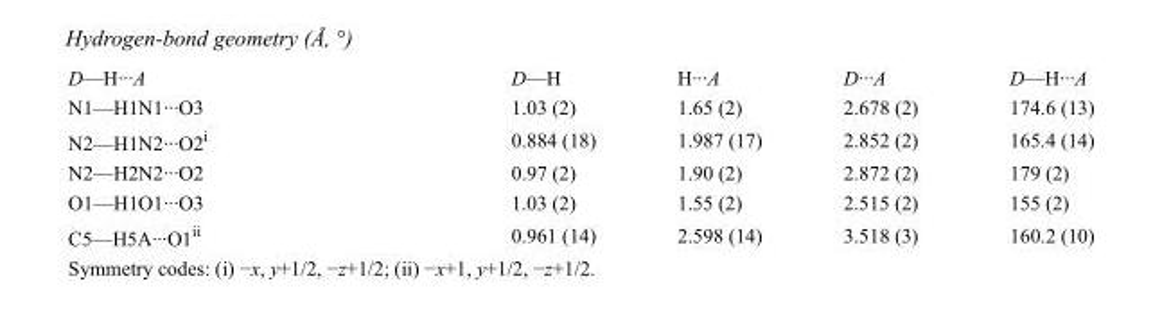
<table><tbody><tr><td>D—H···A</td><td>D—H</td><td>H···A</td><td>D···A</td><td>D—H···A</td></tr><tr><td>N1—H1N1···O3</td><td>1.03 (2)</td><td>1.65 (2)</td><td>2.678 (2)</td><td>174.6 (13)</td></tr><tr><td>N2—H1N2···O2<sup>i</sup></td><td>0.884 (18)</td><td>1.987 (17)</td><td>2.852 (2)</td><td>165.4 (14)</td></tr><tr><td>N2—H2N2···O2</td><td>0.97 (2)</td><td>1.90 (2)</td><td>2.872 (2)</td><td>179 (2)</td></tr><tr><td>O1—H1O1···O3</td><td>1.03 (2)</td><td>1.55 (2)</td><td>2.515 (2)</td><td>155 (2)</td></tr><tr><td>C5—H5A···O1<sup>ii</sup></td><td>0.961 (14)</td><td>2.598 (14)</td><td>3.518 (3)</td><td>160.2 (10)</td></tr></tbody></table>